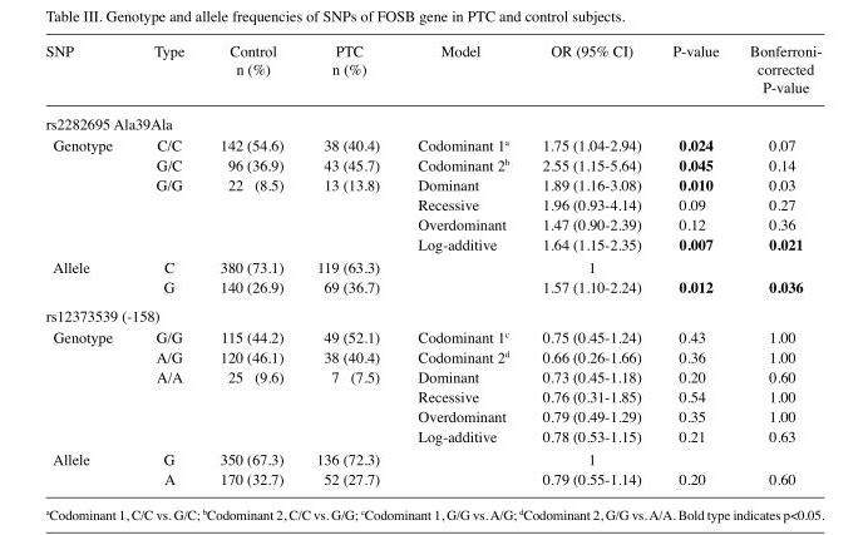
<table><thead><tr><td>SNP</td><td>Type</td><td>Control n (%)</td><td>PTC n (%)</td><td>Model</td><td>OR (95% CI)</td><td>P-value</td><td>Bonferroni- corrected P-value</td></tr></thead><tbody><tr><td colspan="8">rs2282695 Ala39Ala</td></tr><tr><td rowspan="6">Genotype</td><td>C/C</td><td>142 (54.6)</td><td>38 (40.4)</td><td>Codominant 1<sup>a</sup></td><td>1.75 (1.04-2.94)</td><td>0.024</td><td>0.07</td></tr><tr><td>G/C</td><td>96 (36.9)</td><td>43 (45.7)</td><td>Codominant 2<sup>b</sup></td><td>2.55 (1.15-5.64)</td><td>0.045</td><td>0.14</td></tr><tr><td>G/G</td><td>22 (8.5)</td><td>13 (13.8)</td><td>Dominant</td><td>1.89 (1.16-3.08)</td><td>0.010</td><td>0.03</td></tr><tr><td></td><td></td><td></td><td>Recessive</td><td>1.96 (0.93-4.14)</td><td>0.09</td><td>0.27</td></tr><tr><td></td><td></td><td></td><td>Overdominant</td><td>1.47 (0.90-2.39)</td><td>0.12</td><td>0.36</td></tr><tr><td></td><td></td><td></td><td>Log-additive</td><td>1.64 (1.15-2.35)</td><td>0.007</td><td>0.021</td></tr><tr><td rowspan="2">Allele</td><td>C</td><td>380 (73.1)</td><td>119 (63.3)</td><td></td><td>1</td><td></td><td></td></tr><tr><td>G</td><td>140 (26.9)</td><td>69 (36.7)</td><td></td><td>1.57 (1.10-2.24)</td><td>0.012</td><td>0.036</td></tr><tr><td colspan="8">rs12373539 (-158)</td></tr><tr><td rowspan="6">Genotype</td><td>G/G</td><td>115 (44.2)</td><td>49 (52.1)</td><td>Codominant 1<sup>c</sup></td><td>0.75 (0.45-1.24)</td><td>0.43</td><td>1.00</td></tr><tr><td>A/G</td><td>120 (46.1)</td><td>38 (40.4)</td><td>Codominant 2<sup>d</sup></td><td>0.66 (0.26-1.66)</td><td>0.36</td><td>1.00</td></tr><tr><td>A/A</td><td>25 (9.6)</td><td>7 (7.5)</td><td>Dominant</td><td>0.73 (0.45-1.18)</td><td>0.20</td><td>0.60</td></tr><tr><td></td><td></td><td></td><td>Recessive</td><td>0.76 (0.31-1.85)</td><td>0.54</td><td>1.00</td></tr><tr><td></td><td></td><td></td><td>Overdominant</td><td>0.79 (0.49-1.29)</td><td>0.35</td><td>1.00</td></tr><tr><td></td><td></td><td></td><td>Log-additive</td><td>0.78 (0.53-1.15)</td><td>0.21</td><td>0.63</td></tr><tr><td rowspan="2">Allele</td><td>G</td><td>350 (67.3)</td><td>136 (72.3)</td><td></td><td>1</td><td></td><td></td></tr><tr><td>A</td><td>170 (32.7)</td><td>52 (27.7)</td><td></td><td>0.79 (0.55-1.14)</td><td>0.20</td><td>0.60</td></tr></tbody></table>